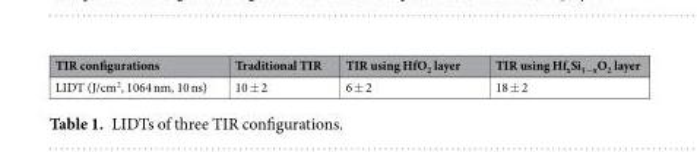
<table><thead><tr><td>TIR configurations</td><td>Traditional TIR</td><td>TIR using HfO<sub>2</sub> layer</td><td>TIR using Hf<sub>x</sub>Si<sub>1−x</sub>O<sub>2</sub> layer</td></tr></thead><tbody><tr><td>LIDT (J/cm<sup>2</sup>, 1064 nm, 10 ns)</td><td>10 ± 2</td><td>6 ± 2</td><td>18 ± 2</td></tr></tbody></table>